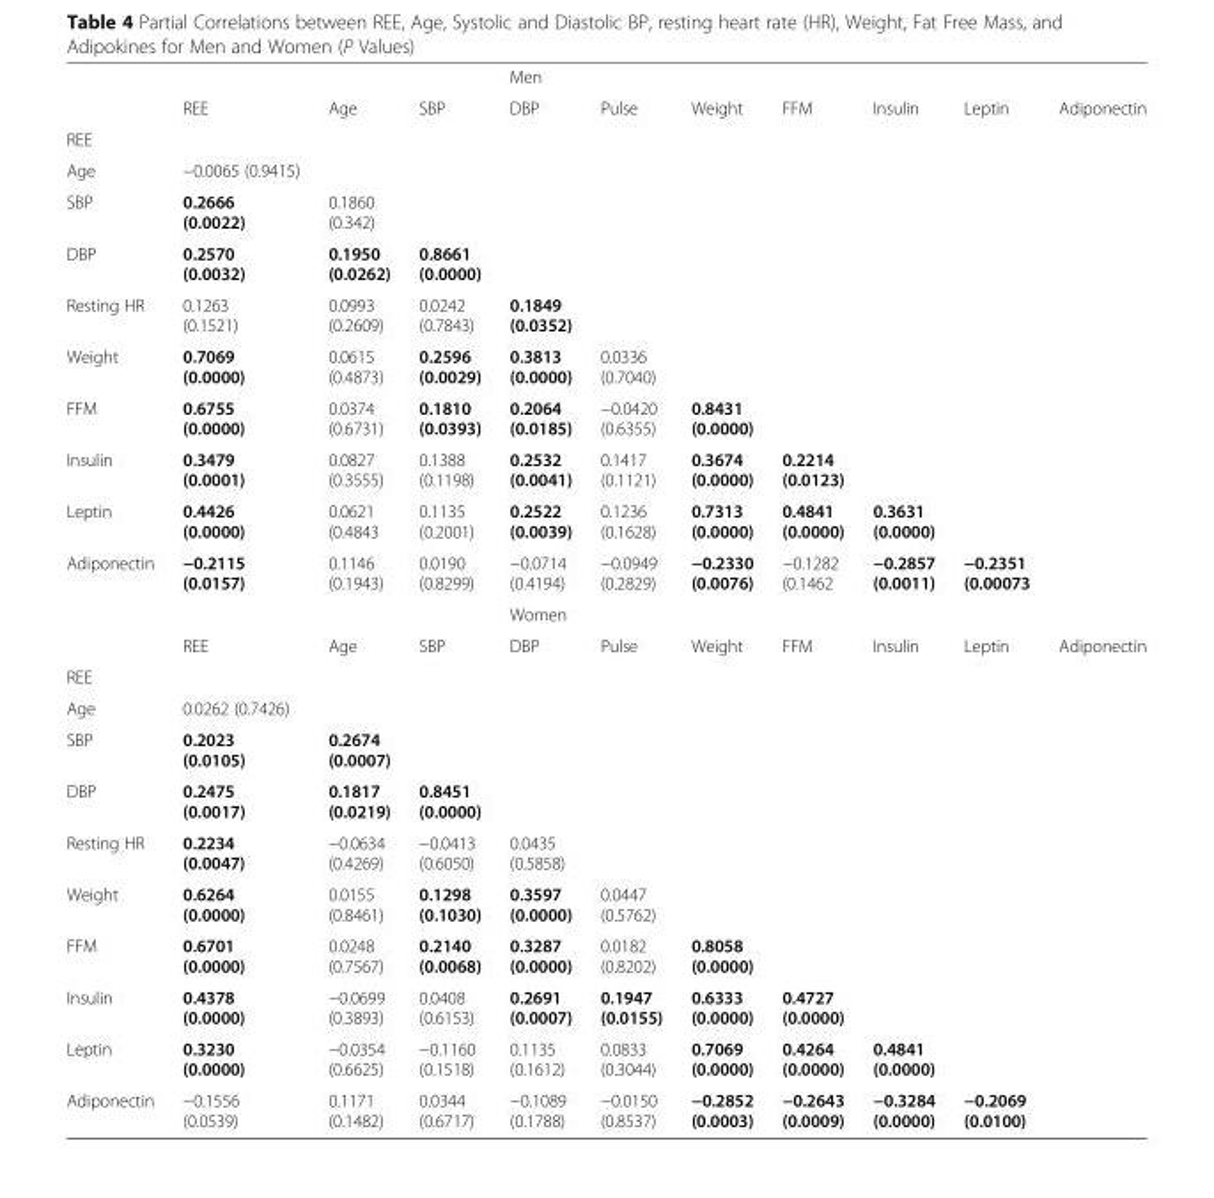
<table><thead><tr><td></td><td></td><td></td><td></td><td>Men</td><td></td><td></td><td></td><td></td><td></td><td></td></tr></thead><tbody><tr><td></td><td>REE</td><td>Age</td><td>SBP</td><td>DBP</td><td>Pulse</td><td>Weight</td><td>FFM</td><td>Insulin</td><td>Leptin</td><td>Adiponectin</td></tr><tr><td colspan="11">REE</td></tr><tr><td>Age</td><td>−0.0065 (0.9415)</td><td></td><td></td><td></td><td></td><td></td><td></td><td></td><td></td><td></td></tr><tr><td>SBP</td><td>0.2666 (0.0022)</td><td>0.1860 (0.342)</td><td></td><td></td><td></td><td></td><td></td><td></td><td></td><td></td></tr><tr><td>DBP</td><td>0.2570 (0.0032)</td><td>0.1950 (0.0262)</td><td>0.8661 (0.0000)</td><td></td><td></td><td></td><td></td><td></td><td></td><td></td></tr><tr><td>Resting HR</td><td>0.1263 (0.1521)</td><td>0.0993 (0.2609)</td><td>0.0242 (0.7843)</td><td>0.1849 (0.0352)</td><td></td><td></td><td></td><td></td><td></td><td></td></tr><tr><td>Weight</td><td>0.7069 (0.0000)</td><td>0.0615 (0.4873)</td><td>0.2596 (0.0029)</td><td>0.3813 (0.0000)</td><td>0.0336 (0.7040)</td><td></td><td></td><td></td><td></td><td></td></tr><tr><td>FFM</td><td>0.6755 (0.0000)</td><td>0.0374 (0.6731)</td><td>0.1810 (0.0393)</td><td>0.2064 (0.0185)</td><td>−0.0420 (0.6355)</td><td>0.8431 (0.0000)</td><td></td><td></td><td></td><td></td></tr><tr><td>Insulin</td><td>0.3479 (0.0001)</td><td>0.0827 (0.3555)</td><td>0.1388 (0.1198)</td><td>0.2532 (0.0041)</td><td>0.1417 (0.1121)</td><td>0.3674 (0.0000)</td><td>0.2214 (0.0123)</td><td></td><td></td><td></td></tr><tr><td>Leptin</td><td>0.4426 (0.0000)</td><td>0.0621 (0.4843</td><td>0.1135 (0.2001)</td><td>0.2522 (0.0039)</td><td>0.1236 (0.1628)</td><td>0.7313 (0.0000)</td><td>0.4841 (0.0000)</td><td>0.3631 (0.0000)</td><td></td><td></td></tr><tr><td rowspan="3">Adiponectin</td><td>−0.2115 (0.0157)</td><td>0.1146 (0.1943)</td><td>0.0190 (0.8299)</td><td>−0.0714 (0.4194)</td><td>−0.0949 (0.2829)</td><td>−0.2330 (0.0076)</td><td>−0.1282 (0.1462</td><td>−0.2857 (0.0011)</td><td>−0.2351 (0.00073</td><td></td></tr><tr><td></td><td></td><td></td><td>Women</td><td></td><td></td><td></td><td></td><td></td><td></td></tr><tr><td>REE</td><td>Age</td><td>SBP</td><td>DBP</td><td>Pulse</td><td>Weight</td><td>FFM</td><td>Insulin</td><td>Leptin</td><td>Adiponectin</td></tr><tr><td colspan="11">REE</td></tr><tr><td>Age</td><td>0.0262 (0.7426)</td><td></td><td></td><td></td><td></td><td></td><td></td><td></td><td></td><td></td></tr><tr><td>SBP</td><td>0.2023 (0.0105)</td><td>0.2674 (0.0007)</td><td></td><td></td><td></td><td></td><td></td><td></td><td></td><td></td></tr><tr><td>DBP</td><td>0.2475 (0.0017)</td><td>0.1817 (0.0219)</td><td>0.8451 (0.0000)</td><td></td><td></td><td></td><td></td><td></td><td></td><td></td></tr><tr><td>Resting HR</td><td>0.2234 (0.0047)</td><td>−0.0634 (0.4269)</td><td>−0.0413 (0.6050)</td><td>0.0435 (0.5858)</td><td></td><td></td><td></td><td></td><td></td><td></td></tr><tr><td>Weight</td><td>0.6264 (0.0000)</td><td>0.0155 (0.8461)</td><td>0.1298 (0.1030)</td><td>0.3597 (0.0000)</td><td>0.0447 (0.5762)</td><td></td><td></td><td></td><td></td><td></td></tr><tr><td>FFM</td><td>0.6701 (0.0000)</td><td>0.0248 (0.7567)</td><td>0.2140 (0.0068)</td><td>0.3287 (0.0000)</td><td>0.0182 (0.8202)</td><td>0.8058 (0.0000)</td><td></td><td></td><td></td><td></td></tr><tr><td>Insulin</td><td>0.4378 (0.0000)</td><td>−0.0699 (0.3893)</td><td>0.0408 (0.6153)</td><td>0.2691 (0.0007)</td><td>0.1947 (0.0155)</td><td>0.6333 (0.0000)</td><td>0.4727 (0.0000)</td><td></td><td></td><td></td></tr><tr><td>Leptin</td><td>0.3230 (0.0000)</td><td>−0.0354 (0.6625)</td><td>−0.1160 (0.1518)</td><td>0.1135 (0.1612)</td><td>0.0833 (0.3044)</td><td>0.7069 (0.0000)</td><td>0.4264 (0.0000)</td><td>0.4841 (0.0000)</td><td></td><td></td></tr><tr><td>Adiponectin</td><td>−0.1556 (0.0539)</td><td>0.1171 (0.1482)</td><td>0.0344 (0.6717)</td><td>−0.1089 (0.1788)</td><td>−0.0150 (0.8537)</td><td>−0.2852 (0.0003)</td><td>−0.2643 (0.0009)</td><td>−0.3284 (0.0000)</td><td>−0.2069 (0.0100)</td><td></td></tr></tbody></table>